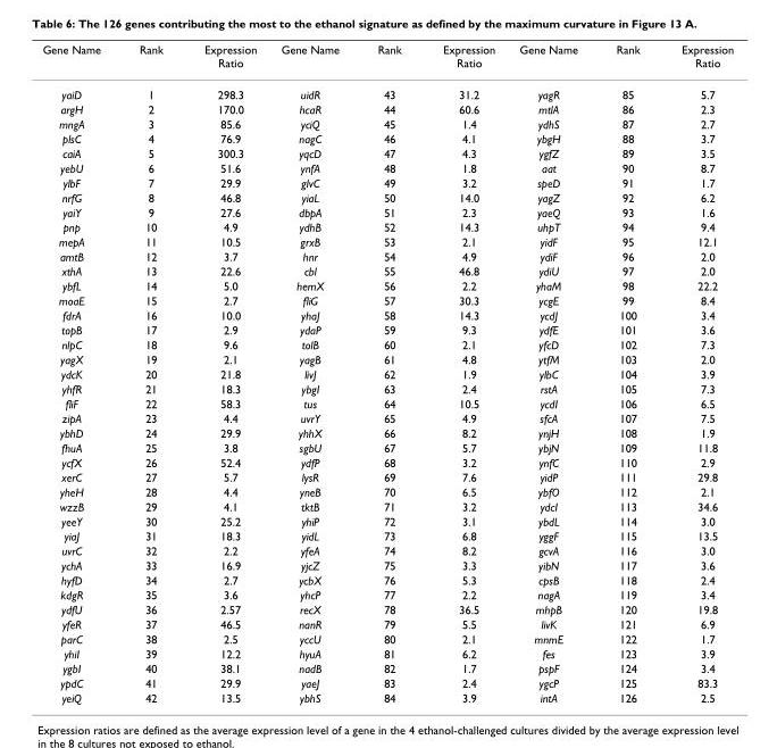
<table><thead><tr><td>Gene Name</td><td>Rank</td><td>Expression Ratio</td><td>Gene Name</td><td>Rank</td><td>Expression Ratio</td><td>Gene Name</td><td>Rank</td><td>Expression Ratio</td></tr></thead><tbody><tr><td>yaiD</td><td>1</td><td>298.3</td><td>uidR</td><td>43</td><td>31.2</td><td>yagR</td><td>85</td><td>5.7</td></tr><tr><td>argH</td><td>2</td><td>170.0</td><td>hcaR</td><td>44</td><td>60.6</td><td>mtlA</td><td>86</td><td>2.3</td></tr><tr><td>mngA</td><td>3</td><td>85.6</td><td>yciQ</td><td>45</td><td>1.4</td><td>ydhS</td><td>87</td><td>2.7</td></tr><tr><td>plsC</td><td>4</td><td>76.9</td><td>nagC</td><td>46</td><td>4.1</td><td>ybgH</td><td>88</td><td>3.7</td></tr><tr><td>caiA</td><td>5</td><td>300.3</td><td>yqcD</td><td>47</td><td>4.3</td><td>ygfZ</td><td>89</td><td>3.5</td></tr><tr><td>yebU</td><td>6</td><td>51.6</td><td>ynfA</td><td>48</td><td>1.8</td><td>aat</td><td>90</td><td>8.7</td></tr><tr><td>ylbF</td><td>7</td><td>29.9</td><td>glvC</td><td>49</td><td>3.2</td><td>speD</td><td>91</td><td>1.7</td></tr><tr><td>nrfG</td><td>8</td><td>46.8</td><td>yiaL</td><td>50</td><td>14.0</td><td>yagZ</td><td>92</td><td>6.2</td></tr><tr><td>yaiY</td><td>9</td><td>27.6</td><td>dbpA</td><td>51</td><td>2.3</td><td>yaeQ</td><td>93</td><td>1.6</td></tr><tr><td>pnp</td><td>10</td><td>4.9</td><td>ydhB</td><td>52</td><td>14.3</td><td>uhpT</td><td>94</td><td>9.4</td></tr><tr><td>mepA</td><td>11</td><td>10.5</td><td>grxB</td><td>53</td><td>2.1</td><td>yidF</td><td>95</td><td>12.1</td></tr><tr><td>amtB</td><td>12</td><td>3.7</td><td>hnr</td><td>54</td><td>4.9</td><td>ydiF</td><td>96</td><td>2.0</td></tr><tr><td>xthA</td><td>13</td><td>22.6</td><td>cbl</td><td>55</td><td>46.8</td><td>ydiU</td><td>97</td><td>2.0</td></tr><tr><td>ybfL</td><td>14</td><td>5.0</td><td>hemX</td><td>56</td><td>2.2</td><td>yhaM</td><td>98</td><td>22.2</td></tr><tr><td>moaE</td><td>15</td><td>2.7</td><td>fliG</td><td>57</td><td>30.3</td><td>ycgE</td><td>99</td><td>8.4</td></tr><tr><td>fdrA</td><td>16</td><td>10.0</td><td>yhaJ</td><td>58</td><td>14.3</td><td>ycdJ</td><td>100</td><td>3.4</td></tr><tr><td>topB</td><td>17</td><td>2.9</td><td>ydaP</td><td>59</td><td>9.3</td><td>ydfE</td><td>101</td><td>3.6</td></tr><tr><td>nlpC</td><td>18</td><td>9.6</td><td>tolB</td><td>60</td><td>2.1</td><td>yfcD</td><td>102</td><td>7.3</td></tr><tr><td>yagX</td><td>19</td><td>2.1</td><td>yagB</td><td>61</td><td>4.8</td><td>ytfM</td><td>103</td><td>2.0</td></tr><tr><td>ydcK</td><td>20</td><td>21.8</td><td>livJ</td><td>62</td><td>1.9</td><td>ylbC</td><td>104</td><td>3.9</td></tr><tr><td>yhfR</td><td>21</td><td>18.3</td><td>ybgI</td><td>63</td><td>2.4</td><td>rstA</td><td>105</td><td>7.3</td></tr><tr><td>fliF</td><td>22</td><td>58.3</td><td>tus</td><td>64</td><td>10.5</td><td>ycdI</td><td>106</td><td>6.5</td></tr><tr><td>zipA</td><td>23</td><td>4.4</td><td>uvrY</td><td>65</td><td>4.9</td><td>sfcA</td><td>107</td><td>7.5</td></tr><tr><td>ybhD</td><td>24</td><td>29.9</td><td>yhhX</td><td>66</td><td>8.2</td><td>ynjH</td><td>108</td><td>1.9</td></tr><tr><td>fhuA</td><td>25</td><td>3.8</td><td>sgbU</td><td>67</td><td>5.7</td><td>ybjN</td><td>109</td><td>11.8</td></tr><tr><td>ycfX</td><td>26</td><td>52.4</td><td>ydfP</td><td>68</td><td>3.2</td><td>ynfC</td><td>110</td><td>2.9</td></tr><tr><td>xerC</td><td>27</td><td>5.7</td><td>lysR</td><td>69</td><td>7.6</td><td>yidP</td><td>111</td><td>29.8</td></tr><tr><td>yheH</td><td>28</td><td>4.4</td><td>yneB</td><td>70</td><td>6.5</td><td>ybfO</td><td>112</td><td>2.1</td></tr><tr><td>wzzB</td><td>29</td><td>4.1</td><td>tktB</td><td>71</td><td>3.2</td><td>ydcI</td><td>113</td><td>34.6</td></tr><tr><td>yeeY</td><td>30</td><td>25.2</td><td>yhiP</td><td>72</td><td>3.1</td><td>ybdL</td><td>114</td><td>3.0</td></tr><tr><td>yiaJ</td><td>31</td><td>18.3</td><td>yidL</td><td>73</td><td>6.8</td><td>yggF</td><td>115</td><td>13.5</td></tr><tr><td>uvrC</td><td>32</td><td>2.2</td><td>yfeA</td><td>74</td><td>8.2</td><td>gcvA</td><td>116</td><td>3.0</td></tr><tr><td>ychA</td><td>33</td><td>16.9</td><td>yjcZ</td><td>75</td><td>3.3</td><td>yibN</td><td>117</td><td>3.6</td></tr><tr><td>hyfD</td><td>34</td><td>2.7</td><td>ycbX</td><td>76</td><td>5.3</td><td>cpsB</td><td>118</td><td>2.4</td></tr><tr><td>kdgR</td><td>35</td><td>3.6</td><td>yhcP</td><td>77</td><td>2.2</td><td>nagA</td><td>119</td><td>3.4</td></tr><tr><td>ydfU</td><td>36</td><td>2.57</td><td>recX</td><td>78</td><td>36.5</td><td>mhpB</td><td>120</td><td>19.8</td></tr><tr><td>yfeR</td><td>37</td><td>46.5</td><td>nanR</td><td>79</td><td>5.5</td><td>livK</td><td>121</td><td>6.9</td></tr><tr><td>parC</td><td>38</td><td>2.5</td><td>yccU</td><td>80</td><td>2.1</td><td>mnmE</td><td>122</td><td>1.7</td></tr><tr><td>yhiI</td><td>39</td><td>12.2</td><td>hyuA</td><td>81</td><td>6.2</td><td>fes</td><td>123</td><td>3.9</td></tr><tr><td>ygbI</td><td>40</td><td>38.1</td><td>nadB</td><td>82</td><td>1.7</td><td>pspF</td><td>124</td><td>3.4</td></tr><tr><td>ypdC</td><td>41</td><td>29.9</td><td>yaeJ</td><td>83</td><td>2.4</td><td>ygcP</td><td>125</td><td>83.3</td></tr><tr><td>yeiQ</td><td>42</td><td>13.5</td><td>ybhS</td><td>84</td><td>3.9</td><td>intA</td><td>126</td><td>2.5</td></tr></tbody></table>